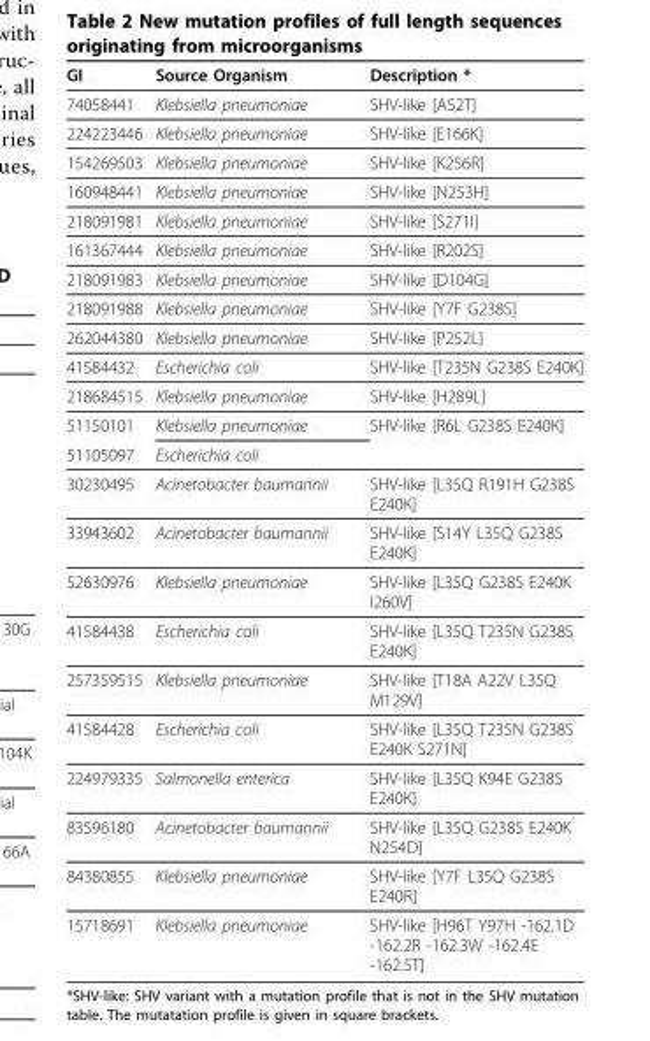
<table><thead><tr><td>GI</td><td>Source Organism</td><td>Description *</td></tr></thead><tbody><tr><td>74058441</td><td>Klebsiella pneumoniae</td><td>SHV-like [A52T]</td></tr><tr><td>224223446</td><td>Klebsiella pneumoniae</td><td>SHV-like [E166K]</td></tr><tr><td>154269503</td><td>Klebsiella pneumoniae</td><td>SHV-like [K256R]</td></tr><tr><td>160948441</td><td>Klebsiella pneumoniae</td><td>SHV-like [N253H]</td></tr><tr><td>218091981</td><td>Klebsiella pneumoniae</td><td>SHV-like [S271I]</td></tr><tr><td>161367444</td><td>Klebsiella pneumoniae</td><td>SHV-like [R202S]</td></tr><tr><td>218091983</td><td>Klebsiella pneumoniae</td><td>SHV-like [D104G]</td></tr><tr><td>218091988</td><td>Klebsiella pneumoniae</td><td>SHV-like [Y7F G238S]</td></tr><tr><td>262044380</td><td>Klebsiella pneumoniae</td><td>SHV-like [P252L]</td></tr><tr><td>41584432</td><td>Escherichia coli</td><td>SHV-like [T235N G238S E240K]</td></tr><tr><td>218684515</td><td>Klebsiella pneumoniae</td><td>SHV-like [H289L]</td></tr><tr><td>51150101</td><td>Klebsiella pneumoniae</td><td>SHV-like [R6L G238S E240K]</td></tr><tr><td>51105097</td><td>Escherichia coli</td><td></td></tr><tr><td>30230495</td><td>Acinetobacter baumannii</td><td>SHV-like [L35Q R191H G238S E240K]</td></tr><tr><td>33943602</td><td>Acinetobacter baumannii</td><td>SHV-like [S14Y L35Q G238S E240K]</td></tr><tr><td>52630976</td><td>Klebsiella pneumoniae</td><td>SHV-like [L35Q G238S E240K I260V]</td></tr><tr><td>41584438</td><td>Escherichia coli</td><td>SHV-like [L35Q T235N G238S E240K]</td></tr><tr><td>257359515</td><td>Klebsiella pneumoniae</td><td>SHV-like [T18A A22V L35Q M129V]</td></tr><tr><td>41584428</td><td>Escherichia coli</td><td>SHV-like [L35Q T235N G238S E240K S271N]</td></tr><tr><td>224979335</td><td>Salmonella enterica</td><td>SHV-like [L35Q K94E G238S E240K]</td></tr><tr><td>83596180</td><td>Acinetobacter baumannii</td><td>SHV-like [L35Q G238S E240K N254D]</td></tr><tr><td>84380855</td><td>Klebsiella pneumoniae</td><td>SHV-like [Y7F L35Q G238S E240R]</td></tr><tr><td>15718691</td><td>Klebsiella pneumoniae</td><td>SHV-like [H96T Y97H -162.1D -162.2R -162.3W -162.4E -162.5T]</td></tr></tbody></table>